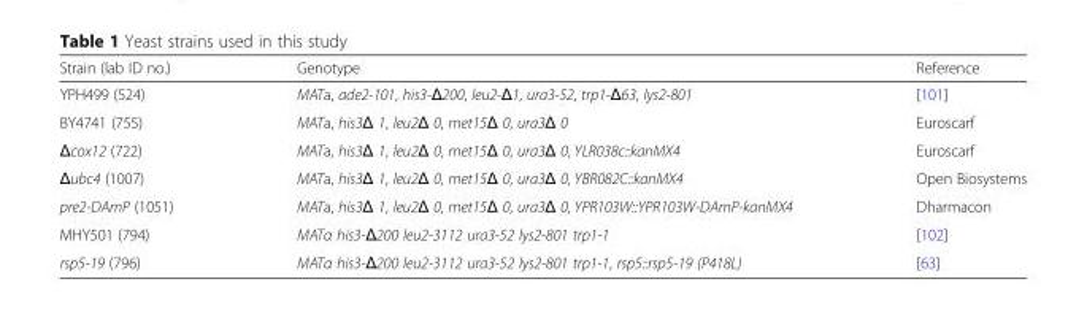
<table><thead><tr><td>Strain (lab ID no.)</td><td>Genotype</td><td>Reference</td></tr></thead><tbody><tr><td>YPH499 (524)</td><td>MATa, ade2-101, his3-Δ200, leu2-Δ1, ura3-52, trp1-Δ63, lys2-801</td><td>[101]</td></tr><tr><td>BY4741 (755)</td><td>MATa, his3Δ 1, leu2Δ 0, met15Δ 0, ura3Δ 0</td><td>Euroscarf</td></tr><tr><td>Δcox12 (722)</td><td>MATa, his3Δ 1, leu2Δ 0, met15Δ 0, ura3Δ 0, YLR038c::kanMX4</td><td>Euroscarf</td></tr><tr><td>Δubc4 (1007)</td><td>MATa, his3Δ 1, leu2Δ 0, met15Δ 0, ura3Δ 0, YBR082C::kanMX4</td><td>Open Biosystems</td></tr><tr><td>pre2-DAmP (1051)</td><td>MATa, his3Δ 1, leu2Δ 0, met15Δ 0, ura3Δ 0, YPR103W::YPR103W-DAmP-kanMX4</td><td>Dharmacon</td></tr><tr><td>MHY501 (794)</td><td>MATα his3-Δ200 leu2-3112 ura3-52 lys2-801 trp1-1</td><td>[102]</td></tr><tr><td>rsp5-19 (796)</td><td>MATα his3-Δ200 leu2-3112 ura3-52 lys2-801 trp1-1, rsp5::rsp5-19 (P418L)</td><td>[63]</td></tr></tbody></table>